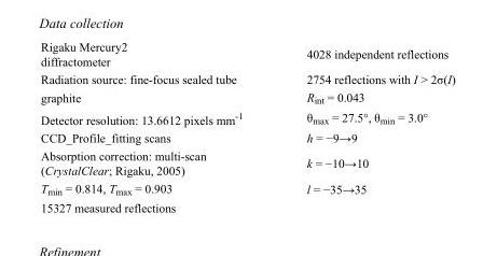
<table><tbody><tr><td>Rigaku Mercury2 diffractometer</td><td>4028 independent reflections</td></tr><tr><td>Radiation source: fine-focus sealed tube</td><td>2754 reflections with I &gt; 2σ(I)</td></tr><tr><td>graphite</td><td>R<sub>int</sub> = 0.043</td></tr><tr><td>Detector resolution: 13.6612 pixels mm<sup>-1</sup></td><td>θ<sub>max</sub> = 27.5°, θ<sub>min</sub> = 3.0°</td></tr><tr><td>CCD_Profile_fitting scans</td><td>h = −9→9</td></tr><tr><td>Absorption correction: multi-scan (CrystalClear; Rigaku, 2005)</td><td>k = −10→10</td></tr><tr><td>T<sub>min</sub> = 0.814, T<sub>max</sub> = 0.903</td><td>l = −35→35</td></tr><tr><td>15327 measured reflections</td><td></td></tr></tbody></table>